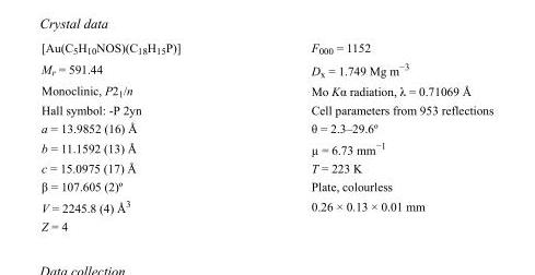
<table><tbody><tr><td>[Au(C<sub>5</sub>H<sub>10</sub>NOS)(C<sub>18</sub>H<sub>15</sub>P)]</td><td>F000 = 1152</td></tr><tr><td>M<sub>r</sub> = 591.44</td><td>D<sub>x</sub> = 1.749 Mg m<sup>−3</sup></td></tr><tr><td>Monoclinic, P2<sub>1</sub>/n</td><td>Mo Kα radiation, λ = 0.71069 Å</td></tr><tr><td>Hall symbol: -P 2yn</td><td>Cell parameters from 953 reflections</td></tr><tr><td>a = 13.9852 (16) Å</td><td>θ = 2.3–29.6º</td></tr><tr><td>b = 11.1592 (13) Å</td><td>µ = 6.73 mm<sup>−1</sup></td></tr><tr><td>c = 15.0975 (17) Å</td><td>T = 223 K</td></tr><tr><td>β = 107.605 (2)º</td><td>Plate, colourless</td></tr><tr><td>V = 2245.8 (4) Å<sup>3</sup></td><td>0.26 × 0.13 × 0.01 mm</td></tr><tr><td>Z = 4</td><td></td></tr></tbody></table>